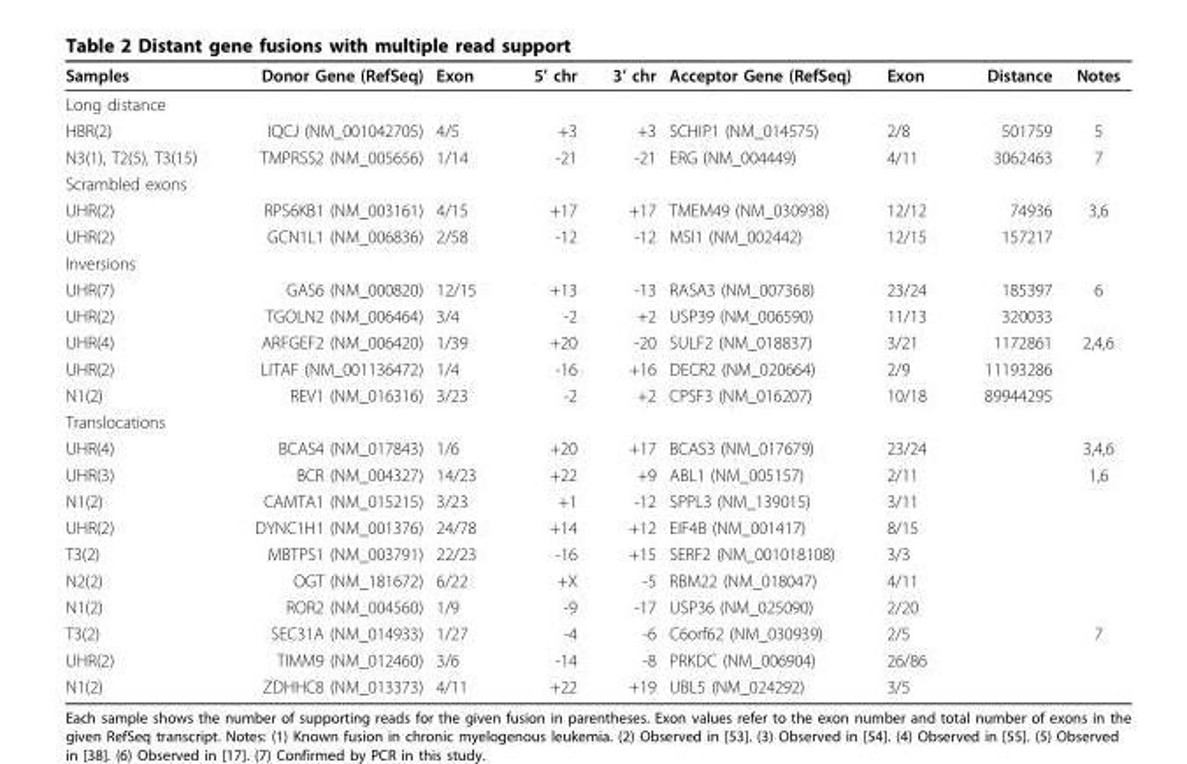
<table><thead><tr><td>Samples</td><td>Donor Gene (RefSeq)</td><td>Exon</td><td>5’ chr</td><td>3’ chr</td><td>Acceptor Gene (RefSeq)</td><td>Exon</td><td>Distance</td><td>Notes</td></tr></thead><tbody><tr><td colspan="9">Long distance</td></tr><tr><td>HBR(2)</td><td>IQCJ (NM_001042705)</td><td>4/5</td><td>+3</td><td>+3</td><td>SCHIP1 (NM_014575)</td><td>2/8</td><td>501759</td><td>5</td></tr><tr><td>N3(1), T2(5), T3(15)</td><td>TMPRSS2 (NM_005656)</td><td>1/14</td><td>-21</td><td>-21</td><td>ERG (NM_004449)</td><td>4/11</td><td>3062463</td><td>7</td></tr><tr><td colspan="9">Scrambled exons</td></tr><tr><td>UHR(2)</td><td>RPS6KB1 (NM_003161)</td><td>4/15</td><td>+17</td><td>+17</td><td>TMEM49 (NM_030938)</td><td>12/12</td><td>74936</td><td>3,6</td></tr><tr><td>UHR(2)</td><td>GCN1L1 (NM_006836)</td><td>2/58</td><td>-12</td><td>-12</td><td>MSI1 (NM_002442)</td><td>12/15</td><td>157217</td><td></td></tr><tr><td colspan="9">Inversions</td></tr><tr><td>UHR(7)</td><td>GAS6 (NM_000820)</td><td>12/15</td><td>+13</td><td>-13</td><td>RASA3 (NM_007368)</td><td>23/24</td><td>185397</td><td>6</td></tr><tr><td>UHR(2)</td><td>TGOLN2 (NM_006464)</td><td>3/4</td><td>-2</td><td>+2</td><td>USP39 (NM_006590)</td><td>11/13</td><td>320033</td><td></td></tr><tr><td>UHR(4)</td><td>ARFGEF2 (NM_006420)</td><td>1/39</td><td>+20</td><td>-20</td><td>SULF2 (NM_018837)</td><td>3/21</td><td>1172861</td><td>2,4,6</td></tr><tr><td>UHR(2)</td><td>LITAF (NM_001136472)</td><td>1/4</td><td>-16</td><td>+16</td><td>DECR2 (NM_020664)</td><td>2/9</td><td>11193286</td><td></td></tr><tr><td>N1(2)</td><td>REV1 (NM_016316)</td><td>3/23</td><td>-2</td><td>+2</td><td>CPSF3 (NM_016207)</td><td>10/18</td><td>89944295</td><td></td></tr><tr><td colspan="9">Translocations</td></tr><tr><td>UHR(4)</td><td>BCAS4 (NM_017843)</td><td>1/6</td><td>+20</td><td>+17</td><td>BCAS3 (NM_017679)</td><td>23/24</td><td></td><td>3,4,6</td></tr><tr><td>UHR(3)</td><td>BCR (NM_004327)</td><td>14/23</td><td>+22</td><td>+9</td><td>ABL1 (NM_005157)</td><td>2/11</td><td></td><td>1,6</td></tr><tr><td>N1(2)</td><td>CAMTA1 (NM_015215)</td><td>3/23</td><td>+1</td><td>-12</td><td>SPPL3 (NM_139015)</td><td>3/11</td><td></td><td></td></tr><tr><td>UHR(2)</td><td>DYNC1H1 (NM_001376)</td><td>24/78</td><td>+14</td><td>+12</td><td>EIF4B (NM_001417)</td><td>8/15</td><td></td><td></td></tr><tr><td>T3(2)</td><td>MBTPS1 (NM_003791)</td><td>22/23</td><td>-16</td><td>+15</td><td>SERF2 (NM_001018108)</td><td>3/3</td><td></td><td></td></tr><tr><td>N2(2)</td><td>OGT (NM_181672)</td><td>6/22</td><td>+X</td><td>-5</td><td>RBM22 (NM_018047)</td><td>4/11</td><td></td><td></td></tr><tr><td>N1(2)</td><td>ROR2 (NM_004560)</td><td>1/9</td><td>-9</td><td>-17</td><td>USP36 (NM_025090)</td><td>2/20</td><td></td><td></td></tr><tr><td>T3(2)</td><td>SEC31A (NM_014933)</td><td>1/27</td><td>-4</td><td>-6</td><td>C6orf62 (NM_030939)</td><td>2/5</td><td></td><td>7</td></tr><tr><td>UHR(2)</td><td>TIMM9 (NM_012460)</td><td>3/6</td><td>-14</td><td>-8</td><td>PRKDC (NM_006904)</td><td>26/86</td><td></td><td></td></tr><tr><td>N1(2)</td><td>ZDHHC8 (NM_013373)</td><td>4/11</td><td>+22</td><td>+19</td><td>UBL5 (NM_024292)</td><td>3/5</td><td></td><td></td></tr></tbody></table>